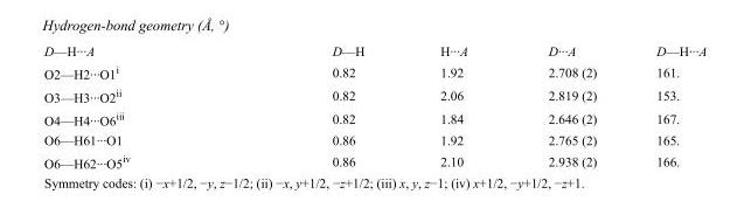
<table><tbody><tr><td>D—H···A</td><td>D—H</td><td>H···A</td><td>D···A</td><td>D—H···A</td></tr><tr><td>O2—H2···O1<sup>i</sup></td><td>0.82</td><td>1.92</td><td>2.708 (2)</td><td>161.</td></tr><tr><td>O3—H3···O2<sup>ii</sup></td><td>0.82</td><td>2.06</td><td>2.819 (2)</td><td>153.</td></tr><tr><td>O4—H4···O6<sup>iii</sup></td><td>0.82</td><td>1.84</td><td>2.646 (2)</td><td>167.</td></tr><tr><td>O6—H61···O1</td><td>0.86</td><td>1.92</td><td>2.765 (2)</td><td>165.</td></tr><tr><td>O6—H62···O5<sup>iv</sup></td><td>0.86</td><td>2.10</td><td>2.938 (2)</td><td>166.</td></tr></tbody></table>